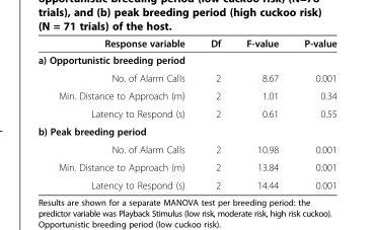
<table><thead><tr><td>Response variable</td><td>Df</td><td>F-value</td><td>P-value</td></tr></thead><tbody><tr><td colspan="4">a) Opportunistic breeding period</td></tr><tr><td>No. of Alarm Calls</td><td>2</td><td>8.67</td><td>0.001</td></tr><tr><td>Min. Distance to Approach (m)</td><td>2</td><td>1.01</td><td>0.34</td></tr><tr><td>Latency to Respond (s)</td><td>2</td><td>0.61</td><td>0.55</td></tr><tr><td colspan="4">b) Peak breeding period</td></tr><tr><td>No. of Alarm Calls</td><td>2</td><td>10.98</td><td>0.001</td></tr><tr><td>Min. Distance to Approach (m)</td><td>2</td><td>13.84</td><td>0.001</td></tr><tr><td>Latency to Respond (s)</td><td>2</td><td>14.44</td><td>0.001</td></tr></tbody></table>